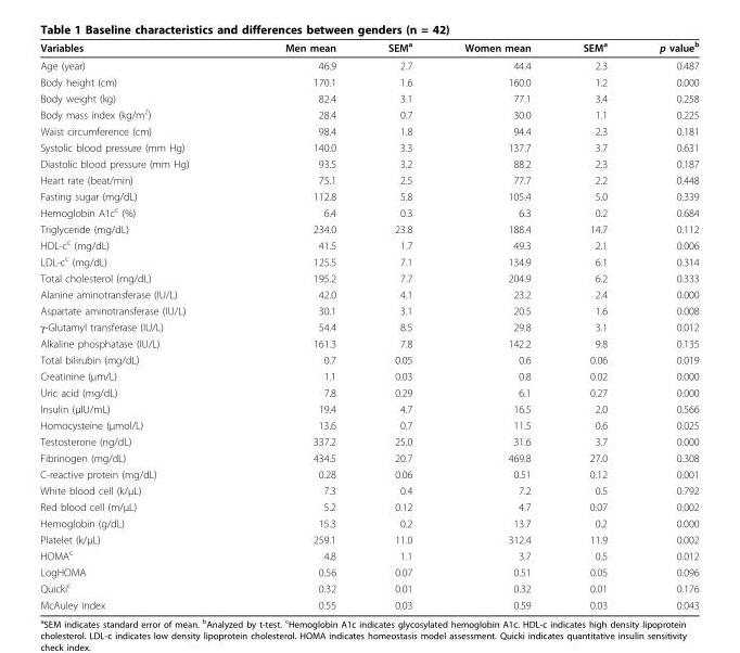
<table><thead><tr><td>Variables</td><td>Men mean</td><td>SEM<sup>a</sup></td><td>Women mean</td><td>SEM<sup>a</sup></td><td>p value<sup>b</sup></td></tr></thead><tbody><tr><td>Age (year)</td><td>46.9</td><td>2.7</td><td>44.4</td><td>2.3</td><td>0.487</td></tr><tr><td>Body height (cm)</td><td>170.1</td><td>1.6</td><td>160.0</td><td>1.2</td><td>0.000</td></tr><tr><td>Body weight (kg)</td><td>82.4</td><td>3.1</td><td>77.1</td><td>3.4</td><td>0.258</td></tr><tr><td>Body mass index (kg/m<sup>2</sup>)</td><td>28.4</td><td>0.7</td><td>30.0</td><td>1.1</td><td>0.225</td></tr><tr><td>Waist circumference (cm)</td><td>98.4</td><td>1.8</td><td>94.4</td><td>2.3</td><td>0.181</td></tr><tr><td>Systolic blood pressure (mm Hg)</td><td>140.0</td><td>3.3</td><td>137.7</td><td>3.7</td><td>0.631</td></tr><tr><td>Diastolic blood pressure (mm Hg)</td><td>93.5</td><td>3.2</td><td>88.2</td><td>2.3</td><td>0.187</td></tr><tr><td>Heart rate (beat/min)</td><td>75.1</td><td>2.5</td><td>77.7</td><td>2.2</td><td>0.448</td></tr><tr><td>Fasting sugar (mg/dL)</td><td>112.8</td><td>5.8</td><td>105.4</td><td>5.0</td><td>0.339</td></tr><tr><td>Hemoglobin A1c<sup>c</sup> (%)</td><td>6.4</td><td>0.3</td><td>6.3</td><td>0.2</td><td>0.684</td></tr><tr><td>Triglyceride (mg/dL)</td><td>234.0</td><td>23.8</td><td>188.4</td><td>14.7</td><td>0.112</td></tr><tr><td>HDL-c<sup>c</sup> (mg/dL)</td><td>41.5</td><td>1.7</td><td>49.3</td><td>2.1</td><td>0.006</td></tr><tr><td>LDL-c<sup>c</sup> (mg/dL)</td><td>125.5</td><td>7.1</td><td>134.9</td><td>6.1</td><td>0.314</td></tr><tr><td>Total cholesterol (mg/dL)</td><td>195.2</td><td>7.7</td><td>204.9</td><td>6.2</td><td>0.333</td></tr><tr><td>Alanine aminotransferase (IU/L)</td><td>42.0</td><td>4.1</td><td>23.2</td><td>2.4</td><td>0.000</td></tr><tr><td>Aspartate aminotransferase (IU/L)</td><td>30.1</td><td>3.1</td><td>20.5</td><td>1.6</td><td>0.008</td></tr><tr><td>γ-Glutamyl transferase (IU/L)</td><td>54.4</td><td>8.5</td><td>29.8</td><td>3.1</td><td>0.012</td></tr><tr><td>Alkaline phosphatase (IU/L)</td><td>161.3</td><td>7.8</td><td>142.2</td><td>9.8</td><td>0.135</td></tr><tr><td>Total bilirubin (mg/dL)</td><td>0.7</td><td>0.05</td><td>0.6</td><td>0.06</td><td>0.019</td></tr><tr><td>Creatinine (μm/L)</td><td>1.1</td><td>0.03</td><td>0.8</td><td>0.02</td><td>0.000</td></tr><tr><td>Uric acid (mg/dL)</td><td>7.8</td><td>0.29</td><td>6.1</td><td>0.27</td><td>0.000</td></tr><tr><td>Insulin (μIU/mL)</td><td>19.4</td><td>4.7</td><td>16.5</td><td>2.0</td><td>0.566</td></tr><tr><td>Homocysteine (μmol/L)</td><td>13.6</td><td>0.7</td><td>11.5</td><td>0.6</td><td>0.025</td></tr><tr><td>Testosterone (ng/dL)</td><td>337.2</td><td>25.0</td><td>31.6</td><td>3.7</td><td>0.000</td></tr><tr><td>Fibrinogen (mg/dL)</td><td>434.5</td><td>20.7</td><td>469.8</td><td>27.0</td><td>0.308</td></tr><tr><td>C-reactive protein (mg/dL)</td><td>0.28</td><td>0.06</td><td>0.51</td><td>0.12</td><td>0.001</td></tr><tr><td>White blood cell (k/μL)</td><td>7.3</td><td>0.4</td><td>7.2</td><td>0.5</td><td>0.792</td></tr><tr><td>Red blood cell (m/μL)</td><td>5.2</td><td>0.12</td><td>4.7</td><td>0.07</td><td>0.002</td></tr><tr><td>Hemoglobin (g/dL)</td><td>15.3</td><td>0.2</td><td>13.7</td><td>0.2</td><td>0.000</td></tr><tr><td>Platelet (k/μL)</td><td>259.1</td><td>11.0</td><td>312.4</td><td>11.9</td><td>0.002</td></tr><tr><td>HOMA<sup>c</sup></td><td>4.8</td><td>1.1</td><td>3.7</td><td>0.5</td><td>0.012</td></tr><tr><td>LogHOMA</td><td>0.56</td><td>0.07</td><td>0.51</td><td>0.05</td><td>0.096</td></tr><tr><td>Quicki<sup>c</sup></td><td>0.32</td><td>0.01</td><td>0.32</td><td>0.01</td><td>0.176</td></tr><tr><td>McAuley index</td><td>0.55</td><td>0.03</td><td>0.59</td><td>0.03</td><td>0.043</td></tr></tbody></table>